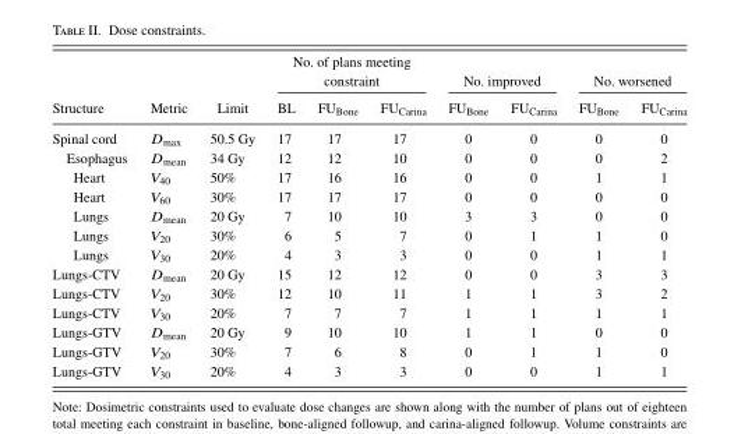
<table><thead><tr><td rowspan="2">Structure</td><td rowspan="2">Metric</td><td rowspan="2">Limit</td><td colspan="3">No. of plans meeting constraint</td><td colspan="2">No. improved</td><td colspan="2">No. worsened</td></tr><tr><td>BL</td><td>FU<sub>Bone</sub></td><td>FU<sub>Carina</sub></td><td>FU<sub>Bone</sub></td><td>FU<sub>Carina</sub></td><td>FU<sub>Bone</sub></td><td>FU<sub>Carina</sub></td></tr></thead><tbody><tr><td>Spinal cord</td><td>D<sub>max</sub></td><td>50.5 Gy</td><td>17</td><td>17</td><td>17</td><td>0</td><td>0</td><td>0</td><td>0</td></tr><tr><td>Esophagus</td><td>D<sub>mean</sub></td><td>34 Gy</td><td>12</td><td>12</td><td>10</td><td>0</td><td>0</td><td>0</td><td>2</td></tr><tr><td>Heart</td><td>V<sub>40</sub></td><td>50%</td><td>17</td><td>16</td><td>16</td><td>0</td><td>0</td><td>1</td><td>1</td></tr><tr><td>Heart</td><td>V<sub>60</sub></td><td>30%</td><td>17</td><td>17</td><td>17</td><td>0</td><td>0</td><td>0</td><td>0</td></tr><tr><td>Lungs</td><td>D<sub>mean</sub></td><td>20 Gy</td><td>7</td><td>10</td><td>10</td><td>3</td><td>3</td><td>0</td><td>0</td></tr><tr><td>Lungs</td><td>V<sub>20</sub></td><td>30%</td><td>6</td><td>5</td><td>7</td><td>0</td><td>1</td><td>1</td><td>0</td></tr><tr><td>Lungs</td><td>V<sub>30</sub></td><td>20%</td><td>4</td><td>3</td><td>3</td><td>0</td><td>0</td><td>1</td><td>1</td></tr><tr><td>Lungs-CTV</td><td>D<sub>mean</sub></td><td>20 Gy</td><td>15</td><td>12</td><td>12</td><td>0</td><td>0</td><td>3</td><td>3</td></tr><tr><td>Lungs-CTV</td><td>V<sub>20</sub></td><td>30%</td><td>12</td><td>10</td><td>11</td><td>1</td><td>1</td><td>3</td><td>2</td></tr><tr><td>Lungs-CTV</td><td>V<sub>30</sub></td><td>20%</td><td>7</td><td>7</td><td>7</td><td>1</td><td>1</td><td>1</td><td>1</td></tr><tr><td>Lungs-GTV</td><td>D<sub>mean</sub></td><td>20 Gy</td><td>9</td><td>10</td><td>10</td><td>1</td><td>1</td><td>0</td><td>0</td></tr><tr><td>Lungs-GTV</td><td>V<sub>20</sub></td><td>30%</td><td>7</td><td>6</td><td>8</td><td>0</td><td>1</td><td>1</td><td>0</td></tr><tr><td>Lungs-GTV</td><td>V<sub>30</sub></td><td>20%</td><td>4</td><td>3</td><td>3</td><td>0</td><td>0</td><td>1</td><td>1</td></tr></tbody></table>